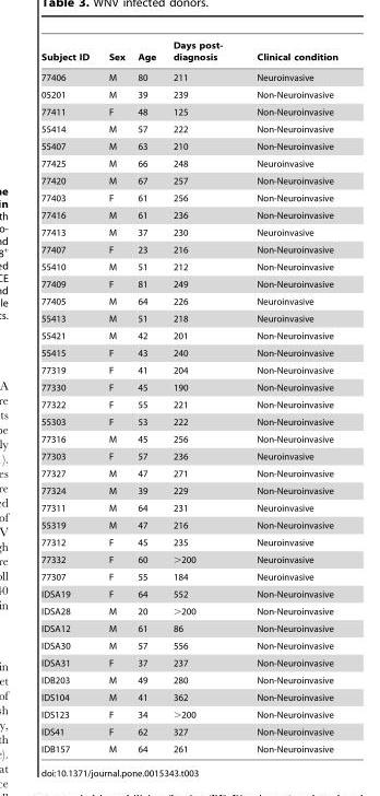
<table><thead><tr><td>Subject ID</td><td>Sex</td><td>Age</td><td>Days post- diagnosis</td><td>Clinical condition</td></tr></thead><tbody><tr><td>77406</td><td>M</td><td>80</td><td>211</td><td>Neuroinvasive</td></tr><tr><td>05201</td><td>M</td><td>39</td><td>239</td><td>Non-Neuroinvasive</td></tr><tr><td>77411</td><td>F</td><td>48</td><td>125</td><td>Non-Neuroinvasive</td></tr><tr><td>55414</td><td>M</td><td>57</td><td>222</td><td>Non-Neuroinvasive</td></tr><tr><td>55407</td><td>M</td><td>63</td><td>210</td><td>Non-Neuroinvasive</td></tr><tr><td>77425</td><td>M</td><td>66</td><td>248</td><td>Neuroinvasive</td></tr><tr><td>77420</td><td>M</td><td>67</td><td>257</td><td>Non-Neuroinvasive</td></tr><tr><td>77403</td><td>F</td><td>61</td><td>256</td><td>Non-Neuroinvasive</td></tr><tr><td>77416</td><td>M</td><td>61</td><td>236</td><td>Non-Neuroinvasive</td></tr><tr><td>77413</td><td>M</td><td>37</td><td>230</td><td>Neuroinvasive</td></tr><tr><td>77407</td><td>F</td><td>23</td><td>216</td><td>Non-Neuroinvasive</td></tr><tr><td>55410</td><td>M</td><td>51</td><td>212</td><td>Non-Neuroinvasive</td></tr><tr><td>77409</td><td>F</td><td>81</td><td>249</td><td>Non-Neuroinvasive</td></tr><tr><td>77405</td><td>M</td><td>64</td><td>226</td><td>Neuroinvasive</td></tr><tr><td>55413</td><td>M</td><td>51</td><td>218</td><td>Neuroinvasive</td></tr><tr><td>55421</td><td>M</td><td>42</td><td>201</td><td>Non-Neuroinvasive</td></tr><tr><td>55415</td><td>F</td><td>43</td><td>240</td><td>Non-Neuroinvasive</td></tr><tr><td>77319</td><td>F</td><td>41</td><td>204</td><td>Non-Neuroinvasive</td></tr><tr><td>77330</td><td>F</td><td>45</td><td>190</td><td>Non-Neuroinvasive</td></tr><tr><td>77322</td><td>F</td><td>55</td><td>221</td><td>Non-Neuroinvasive</td></tr><tr><td>55303</td><td>F</td><td>53</td><td>222</td><td>Non-Neuroinvasive</td></tr><tr><td>77316</td><td>M</td><td>45</td><td>256</td><td>Non-Neuroinvasive</td></tr><tr><td>77303</td><td>F</td><td>57</td><td>236</td><td>Neuroinvasive</td></tr><tr><td>77327</td><td>M</td><td>47</td><td>271</td><td>Non-Neuroinvasive</td></tr><tr><td>77324</td><td>M</td><td>39</td><td>229</td><td>Non-Neuroinvasive</td></tr><tr><td>77311</td><td>M</td><td>64</td><td>231</td><td>Neuroinvasive</td></tr><tr><td>55319</td><td>M</td><td>47</td><td>216</td><td>Non-Neuroinvasive</td></tr><tr><td>77312</td><td>F</td><td>45</td><td>235</td><td>Neuroinvasive</td></tr><tr><td>77332</td><td>F</td><td>60</td><td>&gt;200</td><td>Neuroinvasive</td></tr><tr><td>77307</td><td>F</td><td>55</td><td>184</td><td>Neuroinvasive</td></tr><tr><td>IDSA19</td><td>F</td><td>64</td><td>552</td><td>Non-Neuroinvasive</td></tr><tr><td>IDSA28</td><td>M</td><td>20</td><td>&gt;200</td><td>Non-Neuroinvasive</td></tr><tr><td>IDSA12</td><td>M</td><td>61</td><td>86</td><td>Non-Neuroinvasive</td></tr><tr><td>IDSA30</td><td>M</td><td>57</td><td>556</td><td>Non-Neuroinvasive</td></tr><tr><td>IDSA31</td><td>F</td><td>37</td><td>237</td><td>Non-Neuroinvasive</td></tr><tr><td>IDB203</td><td>M</td><td>49</td><td>280</td><td>Non-Neuroinvasive</td></tr><tr><td>IDS104</td><td>M</td><td>41</td><td>362</td><td>Non-Neuroinvasive</td></tr><tr><td>IDS123</td><td>F</td><td>34</td><td>&gt;200</td><td>Non-Neuroinvasive</td></tr><tr><td>IDS41</td><td>F</td><td>62</td><td>327</td><td>Non-Neuroinvasive</td></tr><tr><td>IDB157</td><td>M</td><td>64</td><td>261</td><td>Non-Neuroinvasive</td></tr></tbody></table>